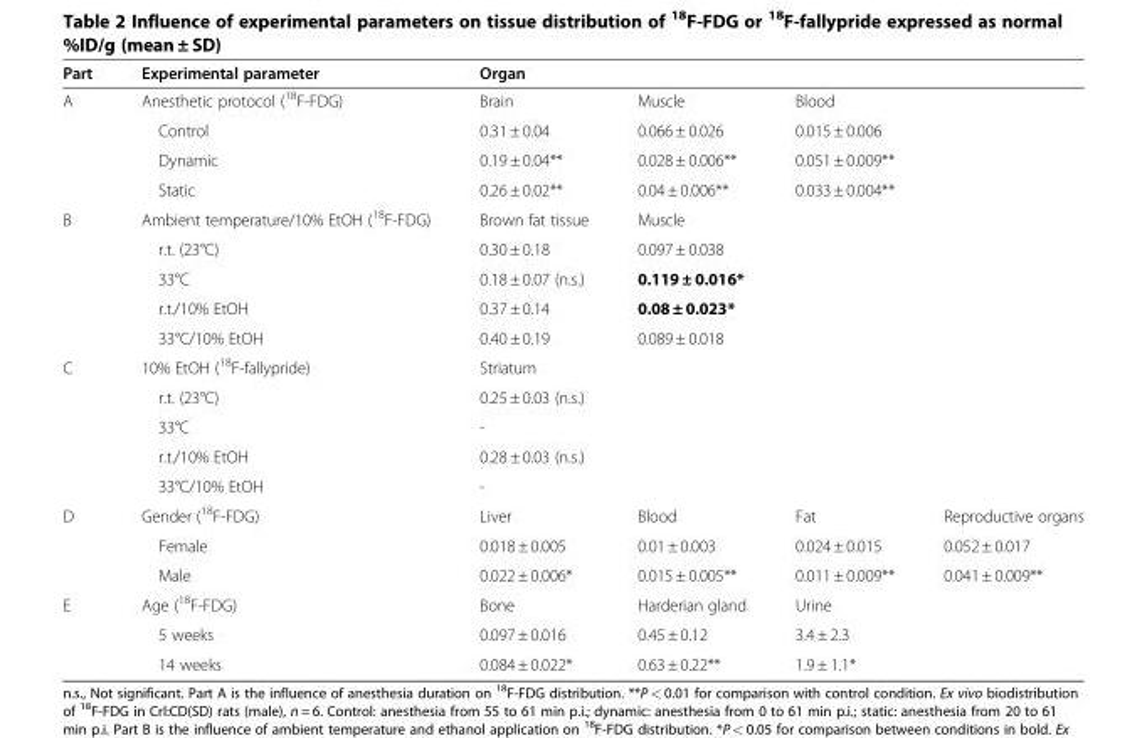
<table><thead><tr><td rowspan="2">Part A</td><td rowspan="2">Experimental parameter Anesthetic protocol (<sup>18</sup>F-FDG)</td><td colspan="4">Organ</td></tr><tr><td>Brain</td><td>Muscle</td><td>Blood</td><td></td></tr></thead><tbody><tr><td></td><td>Control</td><td>0.31 ± 0.04</td><td>0.066 ± 0.026</td><td>0.015 ± 0.006</td><td></td></tr><tr><td></td><td>Dynamic</td><td>0.19 ± 0.04**</td><td>0.028 ± 0.006**</td><td>0.051 ± 0.009**</td><td></td></tr><tr><td></td><td>Static</td><td>0.26 ± 0.02**</td><td>0.04 ± 0.006**</td><td>0.033 ± 0.004**</td><td></td></tr><tr><td rowspan="5">B</td><td>Ambient temperature/10% EtOH (<sup>18</sup>F-FDG)</td><td>Brown fat tissue</td><td>Muscle</td><td></td><td></td></tr><tr><td>r.t. (23°C)</td><td>0.30 ± 0.18</td><td>0.097 ± 0.038</td><td></td><td></td></tr><tr><td>33°C</td><td>0.18 ± 0.07 (n.s.)</td><td>0.119 ± 0.016*</td><td></td><td></td></tr><tr><td>r.t./10% EtOH</td><td>0.37 ± 0.14</td><td>0.08 ± 0.023*</td><td></td><td></td></tr><tr><td>33°C/10% EtOH</td><td>0.40 ± 0.19</td><td>0.089 ± 0.018</td><td></td><td></td></tr><tr><td rowspan="5">C</td><td>10% EtOH (<sup>18</sup>F-fallypride)</td><td>Striatum</td><td></td><td></td><td></td></tr><tr><td>r.t. (23°C)</td><td>0.25 ± 0.03 (n.s.)</td><td></td><td></td><td></td></tr><tr><td>33°C</td><td>-</td><td></td><td></td><td></td></tr><tr><td>r.t./10% EtOH</td><td>0.28 ± 0.03 (n.s.)</td><td></td><td></td><td></td></tr><tr><td>33°C/10% EtOH</td><td>-</td><td></td><td></td><td></td></tr><tr><td rowspan="3">D</td><td>Gender (<sup>18</sup>F-FDG)</td><td>Liver</td><td>Blood</td><td>Fat</td><td>Reproductive organs</td></tr><tr><td>Female</td><td>0.018 ± 0.005</td><td>0.01 ± 0.003</td><td>0.024 ± 0.015</td><td>0.052 ± 0.017</td></tr><tr><td>Male</td><td>0.022 ± 0.006*</td><td>0.015 ± 0.005**</td><td>0.011 ± 0.009**</td><td>0.041 ± 0.009**</td></tr><tr><td rowspan="3">E</td><td>Age (<sup>18</sup>F-FDG)</td><td>Bone</td><td>Harderian gland</td><td>Urine</td><td></td></tr><tr><td>5 weeks</td><td>0.097 ± 0.016</td><td>0.45 ± 0.12</td><td>3.4 ± 2.3</td><td></td></tr><tr><td>14 weeks</td><td>0.084 ± 0.022*</td><td>0.63 ± 0.22**</td><td>1.9 ± 1.1*</td><td></td></tr></tbody></table>